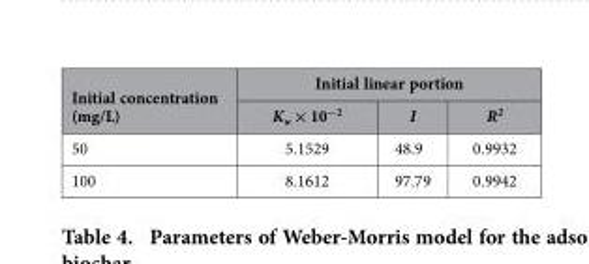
<table><thead><tr><td rowspan="2">Initial concentration (mg/L)</td><td colspan="3">Initial linear portion</td></tr><tr><td>K<sub>w</sub> × 10<sup>−2</sup></td><td>I</td><td>R<sup>2</sup></td></tr></thead><tbody><tr><td>50</td><td>5.1529</td><td>48.9</td><td>0.9932</td></tr><tr><td>100</td><td>8.1612</td><td>97.79</td><td>0.9942</td></tr></tbody></table>